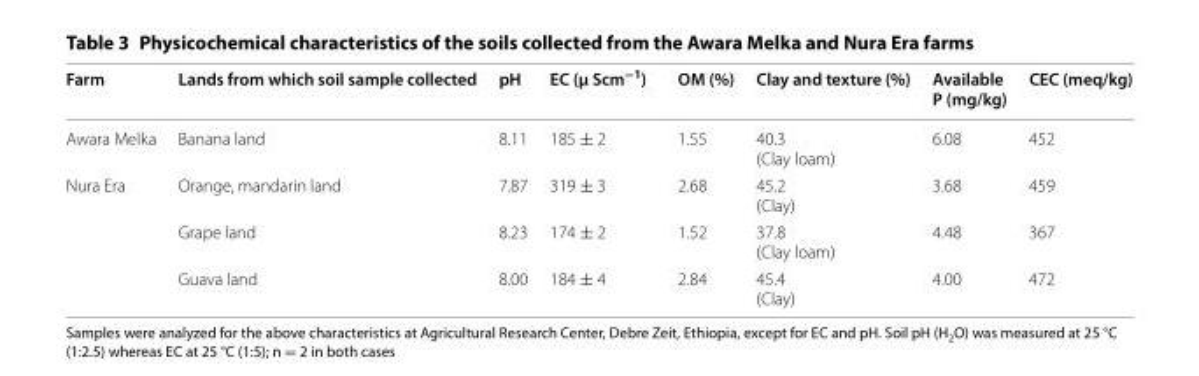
<table><thead><tr><td>Farm</td><td>Lands from which soil sample collected</td><td>pH</td><td>EC (µ Scm<sup>−1</sup>)</td><td>OM (%)</td><td>Clay and texture (%)</td><td>Available P (mg/kg)</td><td>CEC (meq/kg)</td></tr></thead><tbody><tr><td>Awara Melka</td><td>Banana land</td><td>8.11</td><td>185 ± 2</td><td>1.55</td><td>40.3 (Clay loam)</td><td>6.08</td><td>452</td></tr><tr><td rowspan="3">Nura Era</td><td>Orange, mandarin land</td><td>7.87</td><td>319 ± 3</td><td>2.68</td><td>45.2 (Clay)</td><td>3.68</td><td>459</td></tr><tr><td>Grape land</td><td>8.23</td><td>174 ± 2</td><td>1.52</td><td>37.8 (Clay loam)</td><td>4.48</td><td>367</td></tr><tr><td>Guava land</td><td>8.00</td><td>184 ± 4</td><td>2.84</td><td>45.4 (Clay)</td><td>4.00</td><td>472</td></tr></tbody></table>